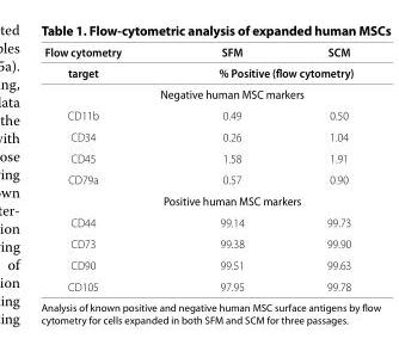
<table><thead><tr><td>Flow cytometry</td><td>SFM</td><td>SCM</td></tr></thead><tbody><tr><td>target</td><td colspan="2">% Positive (flow cytometry)</td></tr><tr><td colspan="3">Negative human MSC markers</td></tr><tr><td>CD11b</td><td>0.49</td><td>0.50</td></tr><tr><td>CD34</td><td>0.26</td><td>1.04</td></tr><tr><td>CD45</td><td>1.58</td><td>1.91</td></tr><tr><td>CD79a</td><td>0.57</td><td>0.90</td></tr><tr><td colspan="3">Positive human MSC markers</td></tr><tr><td>CD44</td><td>99.14</td><td>99.73</td></tr><tr><td>CD73</td><td>99.38</td><td>99.90</td></tr><tr><td>CD90</td><td>99.51</td><td>99.63</td></tr><tr><td>CD105</td><td>97.95</td><td>99.78</td></tr></tbody></table>